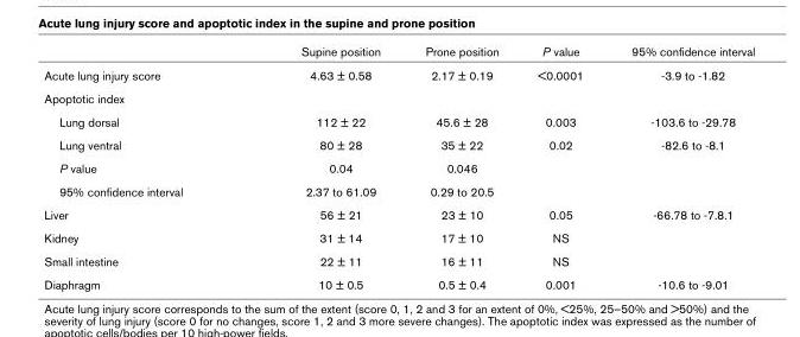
<table><thead><tr><td></td><td>Supine position</td><td>Prone position</td><td>P value</td><td>95% confidence interval</td></tr></thead><tbody><tr><td>Acute lung injury score</td><td>4.63 ± 0.58</td><td>2.17 ± 0.19</td><td>&lt;0.0001</td><td>-3.9 to -1.82</td></tr><tr><td colspan="5">Apoptotic index</td></tr><tr><td>Lung dorsal</td><td>112 ± 22</td><td>45.6 ± 28</td><td>0.003</td><td>-103.6 to -29.78</td></tr><tr><td>Lung ventral</td><td>80 ± 28</td><td>35 ± 22</td><td>0.02</td><td>-82.6 to -8.1</td></tr><tr><td>P value</td><td>0.04</td><td>0.046</td><td></td><td></td></tr><tr><td>95% confidence interval</td><td>2.37 to 61.09</td><td>0.29 to 20.5</td><td></td><td></td></tr><tr><td>Liver</td><td>56 ± 21</td><td>23 ± 10</td><td>0.05</td><td>-66.78 to -7.8.1</td></tr><tr><td>Kidney</td><td>31 ± 14</td><td>17 ± 10</td><td>NS</td><td></td></tr><tr><td>Small intestine</td><td>22 ± 11</td><td>16 ± 11</td><td>NS</td><td></td></tr><tr><td>Diaphragm</td><td>10 ± 0.5</td><td>0.5 ± 0.4</td><td>0.001</td><td>-10.6 to -9.01</td></tr></tbody></table>